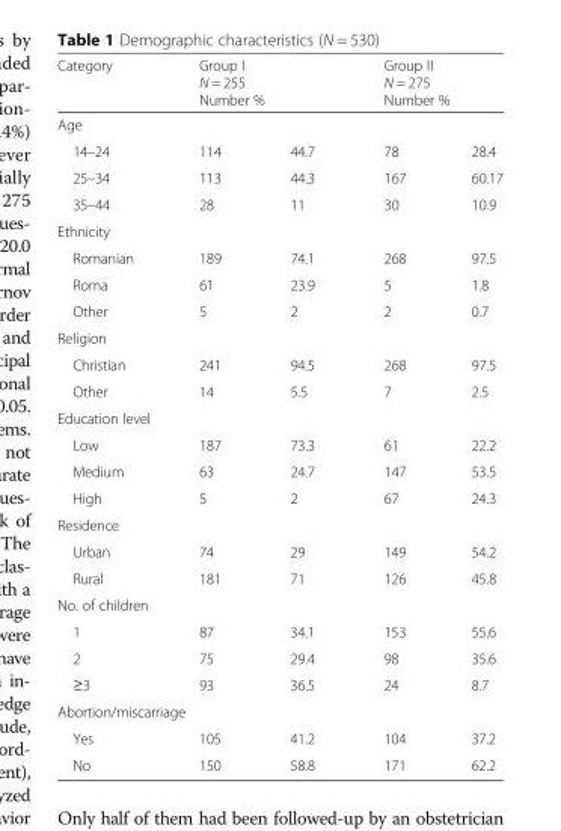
<table><thead><tr><td rowspan="2">Category</td><td rowspan="2" colspan="2">Group I N = 255 Number %</td><td rowspan="2" colspan="2">Group II N = 275 Number %</td></tr><tr></tr><tr><td colspan="5">Age</td></tr><tr><td>14–24</td><td>114</td><td>44.7</td><td>78</td><td>28.4</td></tr></thead><tbody><tr><td>25–34</td><td>113</td><td>44.3</td><td>167</td><td>60.17</td></tr><tr><td>35–44</td><td>28</td><td>11</td><td>30</td><td>10.9</td></tr><tr><td colspan="5">Ethnicity</td></tr><tr><td>Romanian</td><td>189</td><td>74.1</td><td>268</td><td>97.5</td></tr><tr><td>Roma</td><td>61</td><td>23.9</td><td>5</td><td>1.8</td></tr><tr><td>Other</td><td>5</td><td>2</td><td>2</td><td>0.7</td></tr><tr><td colspan="5">Religion</td></tr><tr><td>Christian</td><td>241</td><td>94.5</td><td>268</td><td>97.5</td></tr><tr><td>Other</td><td>14</td><td>5.5</td><td>7</td><td>2.5</td></tr><tr><td colspan="5">Education level</td></tr><tr><td>Low</td><td>187</td><td>73.3</td><td>61</td><td>22.2</td></tr><tr><td>Medium</td><td>63</td><td>24.7</td><td>147</td><td>53.5</td></tr><tr><td>High</td><td>5</td><td>2</td><td>67</td><td>24.3</td></tr><tr><td colspan="5">Residence</td></tr><tr><td>Urban</td><td>74</td><td>29</td><td>149</td><td>54.2</td></tr><tr><td>Rural</td><td>181</td><td>71</td><td>126</td><td>45.8</td></tr><tr><td colspan="5">No. of children</td></tr><tr><td>1</td><td>87</td><td>34.1</td><td>153</td><td>55.6</td></tr><tr><td>2</td><td>75</td><td>29.4</td><td>98</td><td>35.6</td></tr><tr><td>≥3</td><td>93</td><td>36.5</td><td>24</td><td>8.7</td></tr><tr><td colspan="5">Abortion/miscarriage</td></tr><tr><td>Yes</td><td>105</td><td>41.2</td><td>104</td><td>37.2</td></tr><tr><td>No</td><td>150</td><td>58.8</td><td>171</td><td>62.2</td></tr></tbody></table>